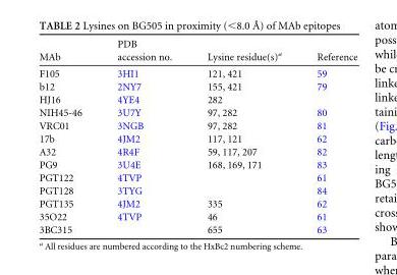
<table><thead><tr><td>MAb</td><td>PDB accession no.</td><td>Lysine residue(s)<sup>a</sup></td><td>Reference</td></tr></thead><tbody><tr><td>F105</td><td>3HI1</td><td>121, 421</td><td>59</td></tr><tr><td>b12</td><td>2NY7</td><td>155, 421</td><td>79</td></tr><tr><td>HJ16</td><td>4YE4</td><td>282</td><td></td></tr><tr><td>NIH45-46</td><td>3U7Y</td><td>97, 282</td><td>80</td></tr><tr><td>VRC01</td><td>3NGB</td><td>97, 282</td><td>81</td></tr><tr><td>17b</td><td>4JM2</td><td>117, 121</td><td>62</td></tr><tr><td>A32</td><td>4R4F</td><td>59, 117, 207</td><td>82</td></tr><tr><td>PG9</td><td>3U4E</td><td>168, 169, 171</td><td>83</td></tr><tr><td>PGT122</td><td>4TVP</td><td></td><td>61</td></tr><tr><td>PGT128</td><td>3TYG</td><td></td><td>84</td></tr><tr><td>PGT135</td><td>4JM2</td><td>335</td><td>62</td></tr><tr><td>35O22</td><td>4TVP</td><td>46</td><td>61</td></tr><tr><td>3BC315</td><td></td><td>655</td><td>63</td></tr></tbody></table>